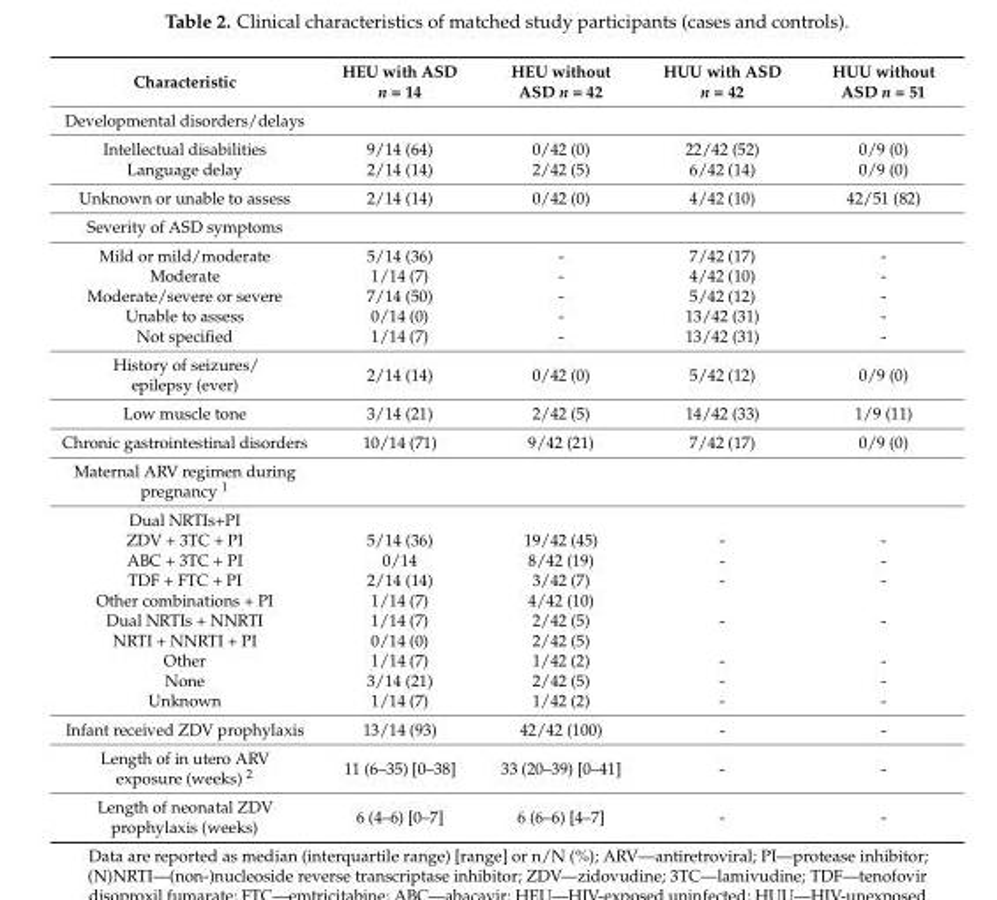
<table><thead><tr><td>Characteristic</td><td>HEU with ASD n = 14</td><td>HEU without ASD n = 42</td><td>HUU with ASD n = 42</td><td>HUU without ASD n = 51</td></tr></thead><tbody><tr><td colspan="5">Developmental disorders/delays</td></tr><tr><td>Intellectual disabilities</td><td>9/14 (64)</td><td>0/42 (0)</td><td>22/42 (52)</td><td>0/9 (0)</td></tr><tr><td>Language delay</td><td>2/14 (14)</td><td>2/42 (5)</td><td>6/42 (14)</td><td>0/9 (0)</td></tr><tr><td>Unknown or unable to assess</td><td>2/14 (14)</td><td>0/42 (0)</td><td>4/42 (10)</td><td>42/51 (82)</td></tr><tr><td colspan="5">Severity of ASD symptoms</td></tr><tr><td>Mild or mild/moderate</td><td>5/14 (36)</td><td>-</td><td>7/42 (17)</td><td>-</td></tr><tr><td>Moderate</td><td>1/14 (7)</td><td>-</td><td>4/42 (10)</td><td>-</td></tr><tr><td>Moderate/severe or severe</td><td>7/14 (50)</td><td>-</td><td>5/42 (12)</td><td>-</td></tr><tr><td>Unable to assess</td><td>0/14 (0)</td><td>-</td><td>13/42 (31)</td><td>-</td></tr><tr><td>Not specified</td><td>1/14 (7)</td><td>-</td><td>13/42 (31)</td><td>-</td></tr><tr><td>History of seizures/ epilepsy (ever)</td><td>2/14 (14)</td><td>0/42 (0)</td><td>5/42 (12)</td><td>0/9 (0)</td></tr><tr><td>Low muscle tone</td><td>3/14 (21)</td><td>2/42 (5)</td><td>14/42 (33)</td><td>1/9 (11)</td></tr><tr><td>Chronic gastrointestinal disorders</td><td>10/14 (71)</td><td>9/42 (21)</td><td>7/42 (17)</td><td>0/9 (0)</td></tr><tr><td colspan="5">Maternal ARV regimen during pregnancy <sup>1</sup></td></tr><tr><td colspan="5">Dual NRTIs+PI</td></tr><tr><td>ZDV + 3TC + PI</td><td>5/14 (36)</td><td>19/42 (45)</td><td>-</td><td>-</td></tr><tr><td>ABC + 3TC + PI</td><td>0/14</td><td>8/42 (19)</td><td>-</td><td>-</td></tr><tr><td>TDF + FTC + PI</td><td>2/14 (14)</td><td>3/42 (7)</td><td>-</td><td>-</td></tr><tr><td>Other combinations + PI</td><td>1/14 (7)</td><td>4/42 (10)</td><td></td><td></td></tr><tr><td>Dual NRTIs + NNRTI</td><td>1/14 (7)</td><td>2/42 (5)</td><td>-</td><td>-</td></tr><tr><td>NRTI + NNRTI + PI</td><td>0/14 (0)</td><td>2/42 (5)</td><td></td><td></td></tr><tr><td>Other</td><td>1/14 (7)</td><td>1/42 (2)</td><td>-</td><td>-</td></tr><tr><td>None</td><td>3/14 (21)</td><td>2/42 (5)</td><td>-</td><td>-</td></tr><tr><td>Unknown</td><td>1/14 (7)</td><td>1/42 (2)</td><td>-</td><td>-</td></tr><tr><td>Infant received ZDV prophylaxis</td><td>13/14 (93)</td><td>42/42 (100)</td><td>-</td><td>-</td></tr><tr><td>Length of in utero ARV exposure (weeks) <sup>2</sup></td><td>11 (6–35) [0–38]</td><td>33 (20–39) [0–41]</td><td>-</td><td>-</td></tr><tr><td>Length of neonatal ZDV prophylaxis (weeks)</td><td>6 (4–6) [0–7]</td><td>6 (6–6) [4–7]</td><td>-</td><td>-</td></tr></tbody></table>